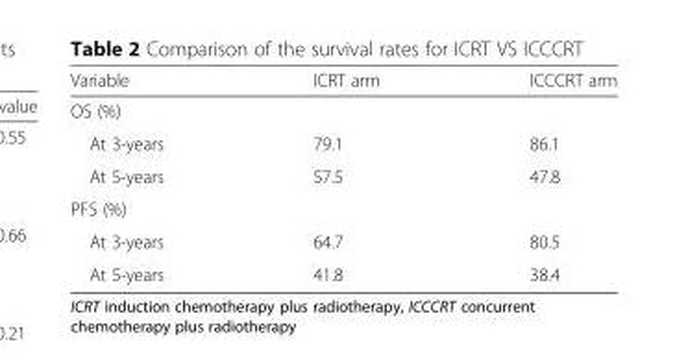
<table><thead><tr><td>Variable</td><td>ICRT arm</td><td>ICCCRT arm</td></tr></thead><tbody><tr><td colspan="3">OS (%)</td></tr><tr><td>At 3-years</td><td>79.1</td><td>86.1</td></tr><tr><td>At 5-years</td><td>57.5</td><td>47.8</td></tr><tr><td colspan="3">PFS (%)</td></tr><tr><td>At 3-years</td><td>64.7</td><td>80.5</td></tr><tr><td>At 5-years</td><td>41.8</td><td>38.4</td></tr></tbody></table>